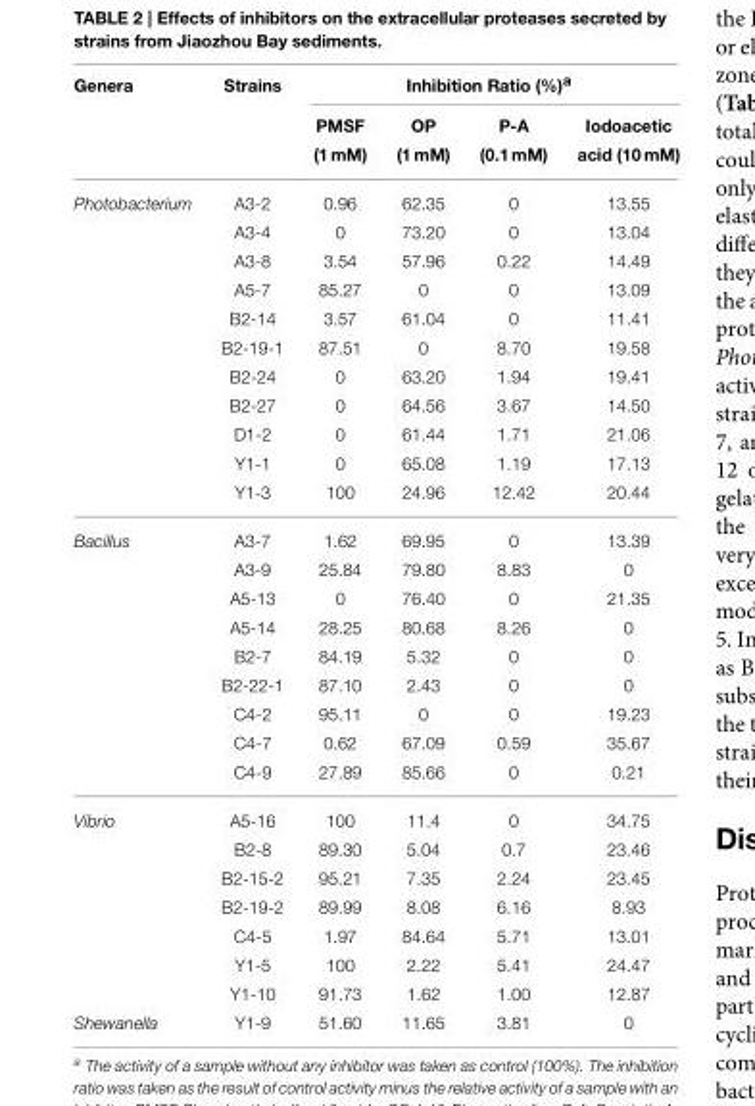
<table><thead><tr><td rowspan="2">Genera</td><td rowspan="2">Strains</td><td colspan="4">Inhibition Ratio (%)<sup>a</sup></td></tr><tr><td>PMSF (1 mM)</td><td>OP (1 mM)</td><td>P-A (0.1 mM)</td><td>Iodoacetic acid (10 mM)</td></tr></thead><tbody><tr><td rowspan="11">Photobacterium</td><td>A3-2</td><td>0.96</td><td>62.35</td><td>0</td><td>13.55</td></tr><tr><td>A3-4</td><td>0</td><td>73.20</td><td>0</td><td>13.04</td></tr><tr><td>A3-8</td><td>3.54</td><td>57.96</td><td>0.22</td><td>14.49</td></tr><tr><td>A5-7</td><td>85.27</td><td>0</td><td>0</td><td>13.09</td></tr><tr><td>B2-14</td><td>3.57</td><td>61.04</td><td>0</td><td>11.41</td></tr><tr><td>B2-19-1</td><td>87.51</td><td>0</td><td>8.70</td><td>19.58</td></tr><tr><td>B2-24</td><td>0</td><td>63.20</td><td>1.94</td><td>19.41</td></tr><tr><td>B2-27</td><td>0</td><td>64.56</td><td>3.67</td><td>14.50</td></tr><tr><td>D1-2</td><td>0</td><td>61.44</td><td>1.71</td><td>21.06</td></tr><tr><td>Y1-1</td><td>0</td><td>65.08</td><td>1.19</td><td>17.13</td></tr><tr><td>Y1-3</td><td>100</td><td>24.96</td><td>12.42</td><td>20.44</td></tr><tr><td rowspan="9">Bacillus</td><td>A3-7</td><td>1.62</td><td>69.95</td><td>0</td><td>13.39</td></tr><tr><td>A3-9</td><td>25.84</td><td>79.80</td><td>8.83</td><td>0</td></tr><tr><td>A5-13</td><td>0</td><td>76.40</td><td>0</td><td>21.35</td></tr><tr><td>A5-14</td><td>28.25</td><td>80.68</td><td>8.26</td><td>0</td></tr><tr><td>B2-7</td><td>84.19</td><td>5.32</td><td>0</td><td>0</td></tr><tr><td>B2-22-1</td><td>87.10</td><td>2.43</td><td>0</td><td>0</td></tr><tr><td>C4-2</td><td>95.11</td><td>0</td><td>0</td><td>19.23</td></tr><tr><td>C4-7</td><td>0.62</td><td>67.09</td><td>0.59</td><td>35.67</td></tr><tr><td>C4-9</td><td>27.89</td><td>85.66</td><td>0</td><td>0.21</td></tr><tr><td rowspan="7">Vibrio</td><td>A5-16</td><td>100</td><td>11.4</td><td>0</td><td>34.75</td></tr><tr><td>B2-8</td><td>89.30</td><td>5.04</td><td>0.7</td><td>23.46</td></tr><tr><td>B2-15-2</td><td>95.21</td><td>7.35</td><td>2.24</td><td>23.45</td></tr><tr><td>B2-19-2</td><td>89.99</td><td>8.08</td><td>6.16</td><td>8.93</td></tr><tr><td>C4-5</td><td>1.97</td><td>84.64</td><td>5.71</td><td>13.01</td></tr><tr><td>Y1-5</td><td>100</td><td>2.22</td><td>5.41</td><td>24.47</td></tr><tr><td>Y1-10</td><td>91.73</td><td>1.62</td><td>1.00</td><td>12.87</td></tr><tr><td>Shewanella</td><td>Y1-9</td><td>51.60</td><td>11.65</td><td>3.81</td><td>0</td></tr></tbody></table>